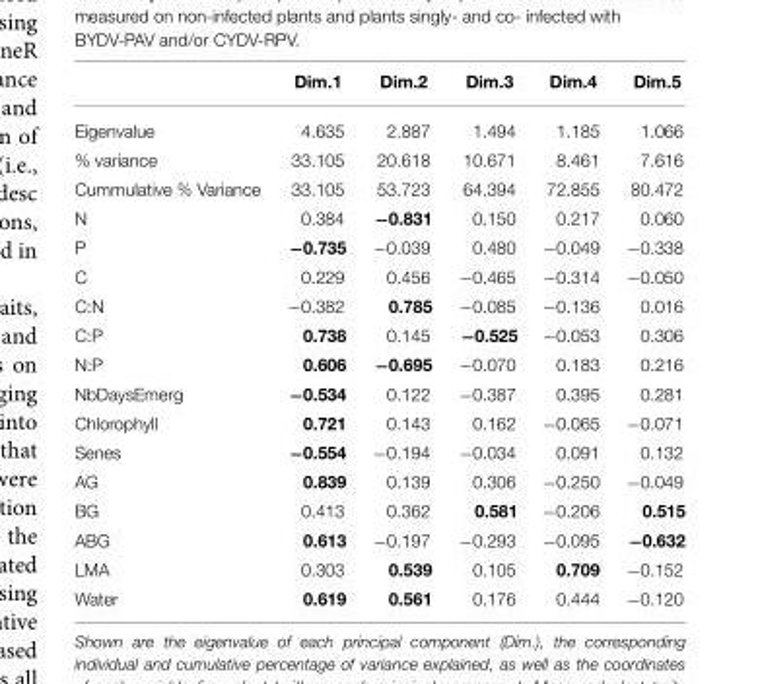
<table><thead><tr><td></td><td>Dim.1</td><td>Dim.2</td><td>Dim.3</td><td>Dim.4</td><td>Dim.5</td></tr></thead><tbody><tr><td>Eigenvalue</td><td>4.635</td><td>2.887</td><td>1.494</td><td>1.185</td><td>1.066</td></tr><tr><td>% variance</td><td>33.105</td><td>20.618</td><td>10.671</td><td>8.461</td><td>7.616</td></tr><tr><td>Cummulative % Variance</td><td>33.105</td><td>53.723</td><td>64.394</td><td>72.855</td><td>80.472</td></tr><tr><td>N</td><td>0.384</td><td>−0.831</td><td>0.150</td><td>0.217</td><td>0.060</td></tr><tr><td>P</td><td>−0.735</td><td>−0.039</td><td>0.480</td><td>−0.049</td><td>−0.338</td></tr><tr><td>C</td><td>0.229</td><td>0.456</td><td>−0.465</td><td>−0.314</td><td>−0.050</td></tr><tr><td>C:N</td><td>−0.382</td><td>0.785</td><td>−0.085</td><td>−0.136</td><td>0.016</td></tr><tr><td>C:P</td><td>0.738</td><td>0.145</td><td>−0.525</td><td>−0.053</td><td>0.306</td></tr><tr><td>N:P</td><td>0.606</td><td>−0.695</td><td>−0.070</td><td>0.183</td><td>0.216</td></tr><tr><td>NbDaysEmerg</td><td>−0.534</td><td>0.122</td><td>−0.387</td><td>0.395</td><td>0.281</td></tr><tr><td>Chlorophyll</td><td>0.721</td><td>0.143</td><td>0.162</td><td>−0.065</td><td>−0.071</td></tr><tr><td>Senes</td><td>−0.554</td><td>−0.194</td><td>−0.034</td><td>0.091</td><td>0.132</td></tr><tr><td>AG</td><td>0.839</td><td>0.139</td><td>0.306</td><td>−0.250</td><td>−0.049</td></tr><tr><td>BG</td><td>0.413</td><td>0.362</td><td>0.581</td><td>−0.206</td><td>0.515</td></tr><tr><td>ABG</td><td>0.613</td><td>−0.197</td><td>−0.293</td><td>−0.095</td><td>−0.632</td></tr><tr><td>LMA</td><td>0.303</td><td>0.539</td><td>0.105</td><td>0.709</td><td>−0.152</td></tr><tr><td>Water</td><td>0.619</td><td>0.561</td><td>0.176</td><td>0.444</td><td>−0.120</td></tr></tbody></table>